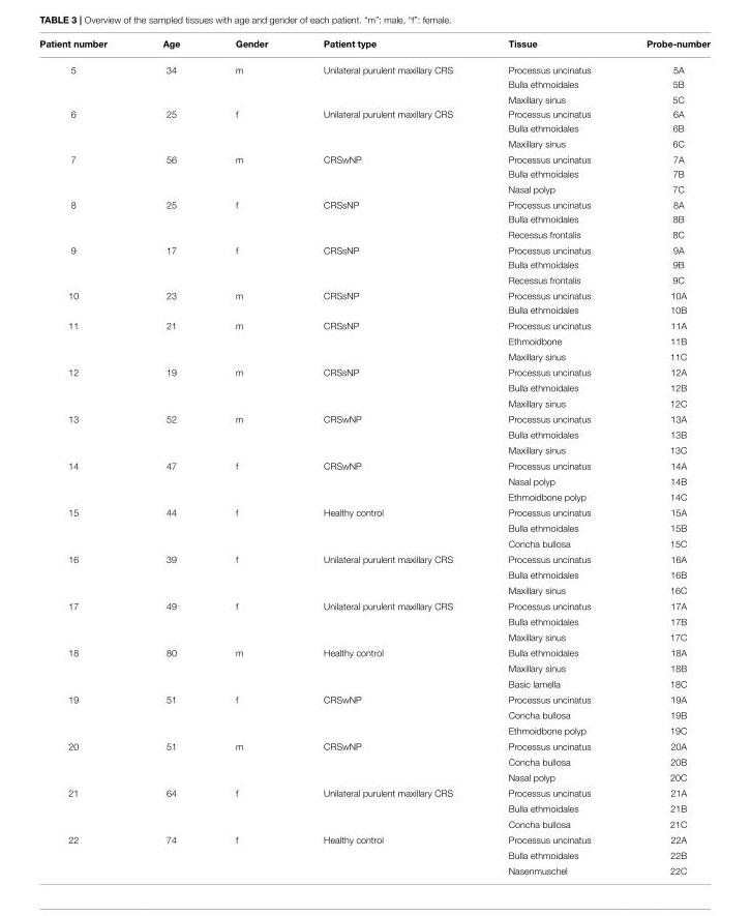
<table><thead><tr><td>Patient number</td><td>Age</td><td>Gender</td><td>Patient type</td><td>Tissue</td><td>Probe-number</td></tr></thead><tbody><tr><td rowspan="3">5</td><td>34</td><td>m</td><td>Unilateral purulent maxillary CRS</td><td>Processus uncinatus</td><td>5A</td></tr><tr><td></td><td></td><td></td><td>Bulla ethmoidales</td><td>5B</td></tr><tr><td></td><td></td><td></td><td>Maxillary sinus</td><td>5C</td></tr><tr><td rowspan="3">6</td><td>25</td><td>f</td><td>Unilateral purulent maxillary CRS</td><td>Processus uncinatus</td><td>6A</td></tr><tr><td></td><td></td><td></td><td>Bulla ethmoidales</td><td>6B</td></tr><tr><td></td><td></td><td></td><td>Maxillary sinus</td><td>6C</td></tr><tr><td rowspan="3">7</td><td>56</td><td>m</td><td>CRSwNP</td><td>Processus uncinatus</td><td>7A</td></tr><tr><td></td><td></td><td></td><td>Bulla ethmoidales</td><td>7B</td></tr><tr><td></td><td></td><td></td><td>Nasal polyp</td><td>7C</td></tr><tr><td rowspan="3">8</td><td>25</td><td>f</td><td>CRSsNP</td><td>Processus uncinatus</td><td>8A</td></tr><tr><td></td><td></td><td></td><td>Bulla ethmoidales</td><td>8B</td></tr><tr><td></td><td></td><td></td><td>Recessus frontalis</td><td>8C</td></tr><tr><td rowspan="3">9</td><td>17</td><td>f</td><td>CRSsNP</td><td>Processus uncinatus</td><td>9A</td></tr><tr><td></td><td></td><td></td><td>Bulla ethmoidales</td><td>9B</td></tr><tr><td></td><td></td><td></td><td>Recessus frontalis</td><td>9C</td></tr><tr><td rowspan="2">10</td><td>23</td><td>m</td><td>CRSsNP</td><td>Processus uncinatus</td><td>10A</td></tr><tr><td></td><td></td><td></td><td>Bulla ethmoidales</td><td>10B</td></tr><tr><td rowspan="3">11</td><td>21</td><td>m</td><td>CRSsNP</td><td>Processus uncinatus</td><td>11A</td></tr><tr><td></td><td></td><td></td><td>Ethmoidbone</td><td>11B</td></tr><tr><td></td><td></td><td></td><td>Maxillary sinus</td><td>11C</td></tr><tr><td rowspan="3">12</td><td>19</td><td>m</td><td>CRSsNP</td><td>Processus uncinatus</td><td>12A</td></tr><tr><td></td><td></td><td></td><td>Bulla ethmoidales</td><td>12B</td></tr><tr><td></td><td></td><td></td><td>Maxillary sinus</td><td>12C</td></tr><tr><td rowspan="3">13</td><td>52</td><td>m</td><td>CRSwNP</td><td>Processus uncinatus</td><td>13A</td></tr><tr><td></td><td></td><td></td><td>Bulla ethmoidales</td><td>13B</td></tr><tr><td></td><td></td><td></td><td>Maxillary sinus</td><td>13C</td></tr><tr><td rowspan="3">14</td><td>47</td><td>f</td><td>CRSwNP</td><td>Processus uncinatus</td><td>14A</td></tr><tr><td></td><td></td><td></td><td>Nasal polyp</td><td>14B</td></tr><tr><td></td><td></td><td></td><td>Ethmoidbone polyp</td><td>14C</td></tr><tr><td rowspan="3">15</td><td>44</td><td>f</td><td>Healthy control</td><td>Processus uncinatus</td><td>15A</td></tr><tr><td></td><td></td><td></td><td>Bulla ethmoidales</td><td>15B</td></tr><tr><td></td><td></td><td></td><td>Concha bullosa</td><td>15C</td></tr><tr><td rowspan="3">16</td><td>39</td><td>f</td><td>Unilateral purulent maxillary CRS</td><td>Processus uncinatus</td><td>16A</td></tr><tr><td></td><td></td><td></td><td>Bulla ethmoidales</td><td>16B</td></tr><tr><td></td><td></td><td></td><td>Maxillary sinus</td><td>16C</td></tr><tr><td rowspan="3">17</td><td>49</td><td>f</td><td>Unilateral purulent maxillary CRS</td><td>Processus uncinatus</td><td>17A</td></tr><tr><td></td><td></td><td></td><td>Bulla ethmoidales</td><td>17B</td></tr><tr><td></td><td></td><td></td><td>Maxillary sinus</td><td>17C</td></tr><tr><td rowspan="3">18</td><td>80</td><td>m</td><td>Healthy control</td><td>Bulla ethmoidales</td><td>18A</td></tr><tr><td></td><td></td><td></td><td>Maxillary sinus</td><td>18B</td></tr><tr><td></td><td></td><td></td><td>Basic lamella</td><td>18C</td></tr><tr><td rowspan="3">19</td><td>51</td><td>f</td><td>CRSwNP</td><td>Processus uncinatus</td><td>19A</td></tr><tr><td></td><td></td><td></td><td>Concha bullosa</td><td>19B</td></tr><tr><td></td><td></td><td></td><td>Ethmoidbone polyp</td><td>19C</td></tr><tr><td rowspan="3">20</td><td>51</td><td>m</td><td>CRSwNP</td><td>Processus uncinatus</td><td>20A</td></tr><tr><td></td><td></td><td></td><td>Concha bullosa</td><td>20B</td></tr><tr><td></td><td></td><td></td><td>Nasal polyp</td><td>20C</td></tr><tr><td rowspan="3">21</td><td>64</td><td>f</td><td>Unilateral purulent maxillary CRS</td><td>Processus uncinatus</td><td>21A</td></tr><tr><td></td><td></td><td></td><td>Bulla ethmoidales</td><td>21B</td></tr><tr><td></td><td></td><td></td><td>Concha bullosa</td><td>21C</td></tr><tr><td rowspan="3">22</td><td>74</td><td>f</td><td>Healthy control</td><td>Processus uncinatus</td><td>22A</td></tr><tr><td></td><td></td><td></td><td>Bulla ethmoidales</td><td>22B</td></tr><tr><td></td><td></td><td></td><td>Nasenmuschel</td><td>22C</td></tr></tbody></table>